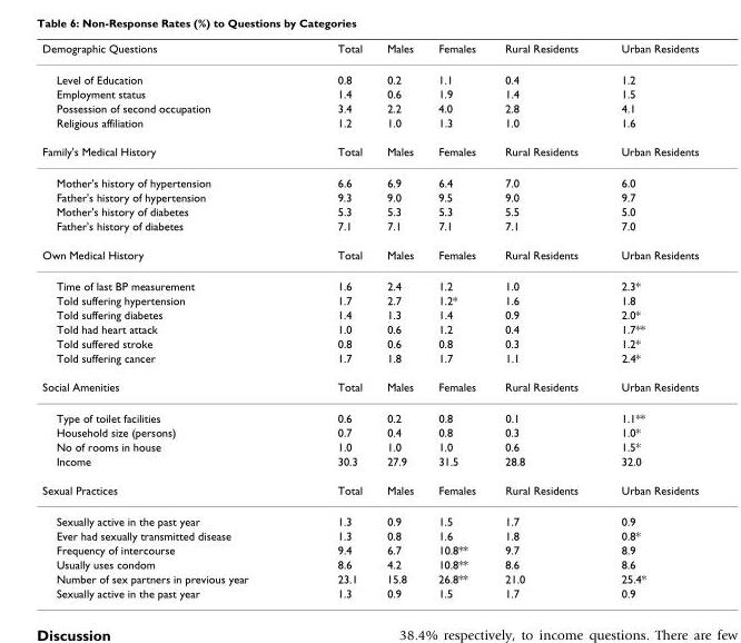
<table><thead><tr><td>Demographic Questions</td><td>Total</td><td>Males</td><td>Females</td><td>Rural Residents</td><td>Urban Residents</td></tr></thead><tbody><tr><td>Level of Education</td><td>0.8</td><td>0.2</td><td>1.1</td><td>0.4</td><td>1.2</td></tr><tr><td>Employment status</td><td>1.4</td><td>0.6</td><td>1.9</td><td>1.4</td><td>1.5</td></tr><tr><td>Possession of second occupation</td><td>3.4</td><td>2.2</td><td>4.0</td><td>2.8</td><td>4.1</td></tr><tr><td>Religious affiliation</td><td>1.2</td><td>1.0</td><td>1.3</td><td>1.0</td><td>1.6</td></tr><tr><td>Family&#x27;s Medical History</td><td>Total</td><td>Males</td><td>Females</td><td>Rural Residents</td><td>Urban Residents</td></tr><tr><td>Mother&#x27;s history of hypertension</td><td>6.6</td><td>6.9</td><td>6.4</td><td>7.0</td><td>6.0</td></tr><tr><td>Father&#x27;s history of hypertension</td><td>9.3</td><td>9.0</td><td>9.5</td><td>9.0</td><td>9.7</td></tr><tr><td>Mother&#x27;s history of diabetes</td><td>5.3</td><td>5.3</td><td>5.3</td><td>5.5</td><td>5.0</td></tr><tr><td>Father&#x27;s history of diabetes</td><td>7.1</td><td>7.1</td><td>7.1</td><td>7.1</td><td>7.0</td></tr><tr><td>Own Medical History</td><td>Total</td><td>Males</td><td>Females</td><td>Rural Residents</td><td>Urban Residents</td></tr><tr><td>Time of last BP measurement</td><td>1.6</td><td>2.4</td><td>1.2</td><td>1.0</td><td>2.3*</td></tr><tr><td>Told suffering hypertension</td><td>1.7</td><td>2.7</td><td>1.2*</td><td>1.6</td><td>1.8</td></tr><tr><td>Told suffering diabetes</td><td>1.4</td><td>1.3</td><td>1.4</td><td>0.9</td><td>2.0*</td></tr><tr><td>Told had heart attack</td><td>1.0</td><td>0.6</td><td>1.2</td><td>0.4</td><td>1.7**</td></tr><tr><td>Told suffered stroke</td><td>0.8</td><td>0.6</td><td>0.8</td><td>0.3</td><td>1.2*</td></tr><tr><td>Told suffering cancer</td><td>1.7</td><td>1.8</td><td>1.7</td><td>1.1</td><td>2.4*</td></tr><tr><td>Social Amenities</td><td>Total</td><td>Males</td><td>Females</td><td>Rural Residents</td><td>Urban Residents</td></tr><tr><td>Type of toilet facilities</td><td>0.6</td><td>0.2</td><td>0.8</td><td>0.1</td><td>1.1**</td></tr><tr><td>Household size (persons)</td><td>0.7</td><td>0.4</td><td>0.8</td><td>0.3</td><td>1.0*</td></tr><tr><td>No of rooms in house</td><td>1.0</td><td>1.0</td><td>1.0</td><td>0.6</td><td>1.5*</td></tr><tr><td>Income</td><td>30.3</td><td>27.9</td><td>31.5</td><td>28.8</td><td>32.0</td></tr><tr><td>Sexual Practices</td><td>Total</td><td>Males</td><td>Females</td><td>Rural Residents</td><td>Urban Residents</td></tr><tr><td>Sexually active in the past year</td><td>1.3</td><td>0.9</td><td>1.5</td><td>1.7</td><td>0.9</td></tr><tr><td>Ever had sexually transmitted disease</td><td>1.3</td><td>0.8</td><td>1.6</td><td>1.8</td><td>0.8*</td></tr><tr><td>Frequency of intercourse</td><td>9.4</td><td>6.7</td><td>10.8**</td><td>9.7</td><td>8.9</td></tr><tr><td>Usually uses condom</td><td>8.6</td><td>4.2</td><td>10.8**</td><td>8.6</td><td>8.6</td></tr><tr><td>Number of sex partners in previous year</td><td>23.1</td><td>15.8</td><td>26.8**</td><td>21.0</td><td>25.4*</td></tr><tr><td>Sexually active in the past year</td><td>1.3</td><td>0.9</td><td>1.5</td><td>1.7</td><td>0.9</td></tr></tbody></table>